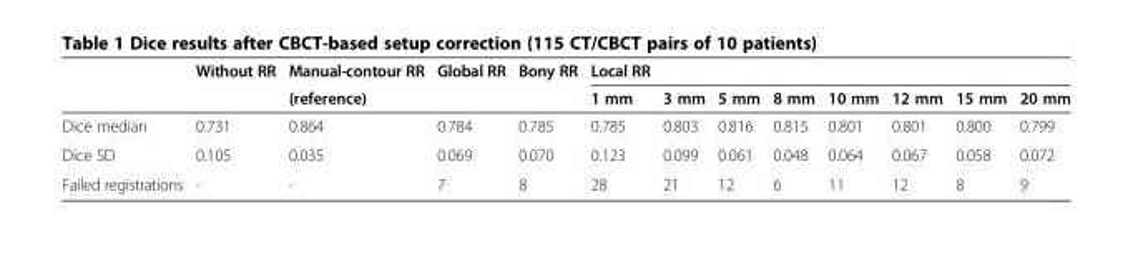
<table><thead><tr><td rowspan="2"></td><td rowspan="2">Without RR</td><td rowspan="2">Manual-contour RR (reference)</td><td rowspan="2">Global RR</td><td rowspan="2">Bony RR</td><td rowspan="2">Local RR 1 mm</td><td rowspan="2">3 mm</td><td rowspan="2">5 mm</td><td rowspan="2">8 mm</td><td rowspan="2">10 mm</td><td rowspan="2">12 mm</td><td rowspan="2">15 mm</td><td rowspan="2">20 mm</td></tr><tr></tr></thead><tbody><tr><td>Dice median</td><td>0.731</td><td>0.864</td><td>0.784</td><td>0.785</td><td>0.785</td><td>0.803</td><td>0.816</td><td>0.815</td><td>0.801</td><td>0.801</td><td>0.800</td><td>0.799</td></tr><tr><td>Dice SD</td><td>0.105</td><td>0.035</td><td>0.069</td><td>0.070</td><td>0.123</td><td>0.099</td><td>0.061</td><td>0.048</td><td>0.064</td><td>0.067</td><td>0.058</td><td>0.072</td></tr><tr><td>Failed registrations</td><td>-</td><td>-</td><td>7</td><td>8</td><td>28</td><td>21</td><td>12</td><td>6</td><td>11</td><td>12</td><td>8</td><td>9</td></tr></tbody></table>